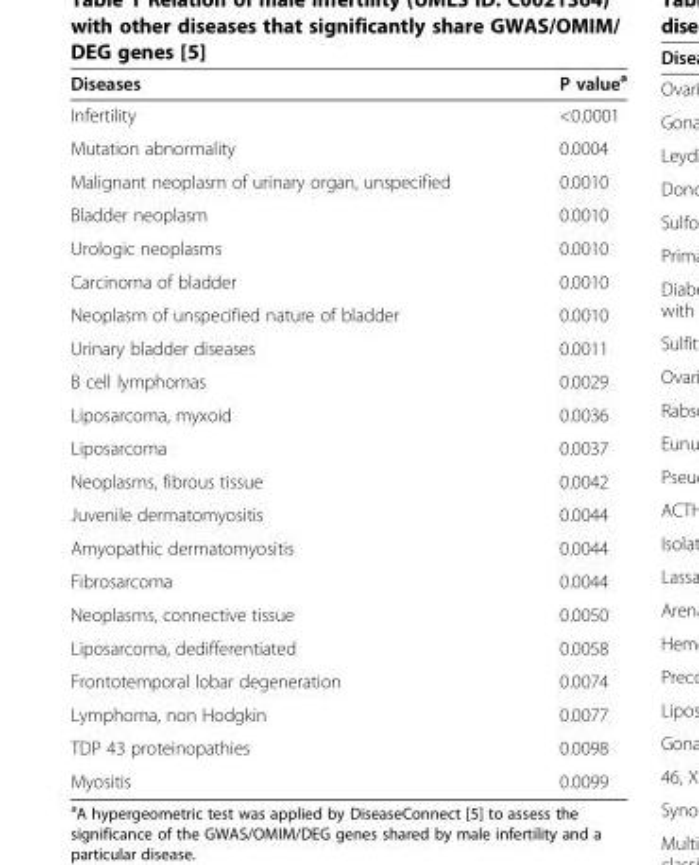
<table><thead><tr><td>Diseases</td><td>P value<sup>a</sup></td></tr></thead><tbody><tr><td>Infertility</td><td>&lt;0.0001</td></tr><tr><td>Mutation abnormality</td><td>0.0004</td></tr><tr><td>Malignant neoplasm of urinary organ, unspecified</td><td>0.0010</td></tr><tr><td>Bladder neoplasm</td><td>0.0010</td></tr><tr><td>Urologic neoplasms</td><td>0.0010</td></tr><tr><td>Carcinoma of bladder</td><td>0.0010</td></tr><tr><td>Neoplasm of unspecified nature of bladder</td><td>0.0010</td></tr><tr><td>Urinary bladder diseases</td><td>0.0011</td></tr><tr><td>B cell lymphomas</td><td>0.0029</td></tr><tr><td>Liposarcoma, myxoid</td><td>0.0036</td></tr><tr><td>Liposarcoma</td><td>0.0037</td></tr><tr><td>Neoplasms, fibrous tissue</td><td>0.0042</td></tr><tr><td>Juvenile dermatomyositis</td><td>0.0044</td></tr><tr><td>Amyopathic dermatomyositis</td><td>0.0044</td></tr><tr><td>Fibrosarcoma</td><td>0.0044</td></tr><tr><td>Neoplasms, connective tissue</td><td>0.0050</td></tr><tr><td>Liposarcoma, dedifferentiated</td><td>0.0058</td></tr><tr><td>Frontotemporal lobar degeneration</td><td>0.0074</td></tr><tr><td>Lymphoma, non Hodgkin</td><td>0.0077</td></tr><tr><td>TDP 43 proteinopathies</td><td>0.0098</td></tr><tr><td>Myositis</td><td>0.0099</td></tr></tbody></table>